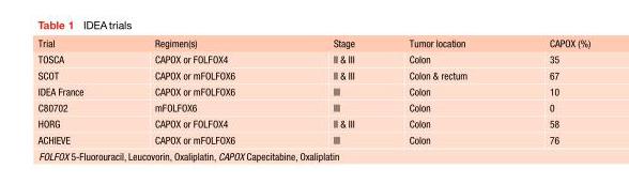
<table><thead><tr><td>Trial</td><td>Regimen(s)</td><td>Stage</td><td>Tumor location</td><td>CAPOX (%)</td></tr></thead><tbody><tr><td>TOSCA</td><td>CAPOX or FOLFOX4</td><td>II &amp; III</td><td>Colon</td><td>35</td></tr><tr><td>SCOT</td><td>CAPOX or mFOLFOX6</td><td>II &amp; III</td><td>Colon &amp; rectum</td><td>67</td></tr><tr><td>IDEA France</td><td>CAPOX or mFOLFOX6</td><td>III</td><td>Colon</td><td>10</td></tr><tr><td>C80702</td><td>mFOLFOX6</td><td>III</td><td>Colon</td><td>0</td></tr><tr><td>HORG</td><td>CAPOX or FOLFOX4</td><td>II &amp; III</td><td>Colon</td><td>58</td></tr><tr><td>ACHIEVE</td><td>CAPOX or mFOLFOX6</td><td>III</td><td>Colon</td><td>76</td></tr></tbody></table>